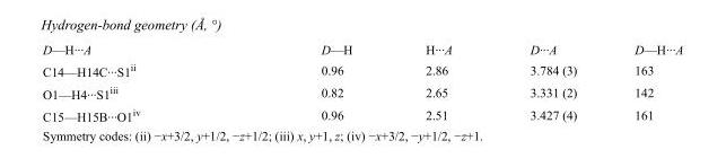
<table><tbody><tr><td>D—H···A</td><td>D—H</td><td>H···A</td><td>D···A</td><td>D—H···A</td></tr><tr><td>C14—H14C···S1<sup>ii</sup></td><td>0.96</td><td>2.86</td><td>3.784 (3)</td><td>163</td></tr><tr><td>O1—H4···S1<sup>iii</sup></td><td>0.82</td><td>2.65</td><td>3.331 (2)</td><td>142</td></tr><tr><td>C15—H15B···O1<sup>iv</sup></td><td>0.96</td><td>2.51</td><td>3.427 (4)</td><td>161</td></tr></tbody></table>